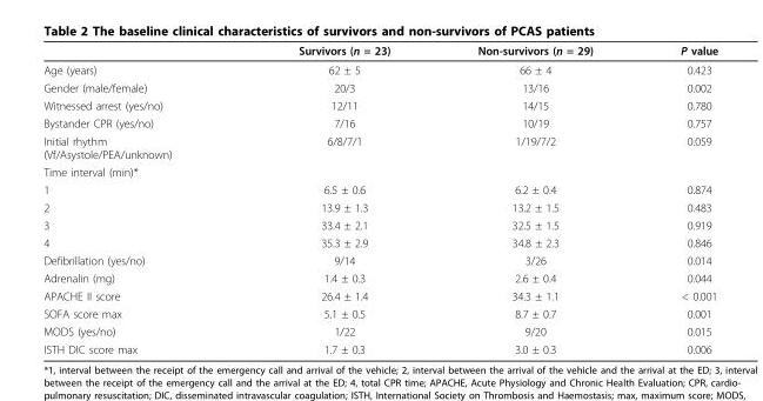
<table><thead><tr><td></td><td>Survivors (n = 23)</td><td>Non-survivors (n = 29)</td><td>P value</td></tr></thead><tbody><tr><td>Age (years)</td><td>62 ± 5</td><td>66 ± 4</td><td>0.423</td></tr><tr><td>Gender (male/female)</td><td>20/3</td><td>13/16</td><td>0.002</td></tr><tr><td>Witnessed arrest (yes/no)</td><td>12/11</td><td>14/15</td><td>0.780</td></tr><tr><td>Bystander CPR (yes/no)</td><td>7/16</td><td>10/19</td><td>0.757</td></tr><tr><td>Initial rhythm (Vf/Asystole/PEA/unknown)</td><td>6/8/7/1</td><td>1/19/7/2</td><td>0.059</td></tr><tr><td colspan="4">Time interval (min)*</td></tr><tr><td>1</td><td>6.5 ± 0.6</td><td>6.2 ± 0.4</td><td>0.874</td></tr><tr><td>2</td><td>13.9 ± 1.3</td><td>13.2 ± 1.5</td><td>0.483</td></tr><tr><td>3</td><td>33.4 ± 2.1</td><td>32.5 ± 1.5</td><td>0.919</td></tr><tr><td>4</td><td>35.3 ± 2.9</td><td>34.8 ± 2.3</td><td>0.846</td></tr><tr><td>Defibrillation (yes/no)</td><td>9/14</td><td>3/26</td><td>0.014</td></tr><tr><td>Adrenalin (mg)</td><td>1.4 ± 0.3</td><td>2.6 ± 0.4</td><td>0.044</td></tr><tr><td>APACHE II score</td><td>26.4 ± 1.4</td><td>34.3 ± 1.1</td><td>&lt; 0.001</td></tr><tr><td>SOFA score max</td><td>5.1 ± 0.5</td><td>8.7 ± 0.7</td><td>0.001</td></tr><tr><td>MODS (yes/no)</td><td>1/22</td><td>9/20</td><td>0.015</td></tr><tr><td>ISTH DIC score max</td><td>1.7 ± 0.3</td><td>3.0 ± 0.3</td><td>0.006</td></tr></tbody></table>